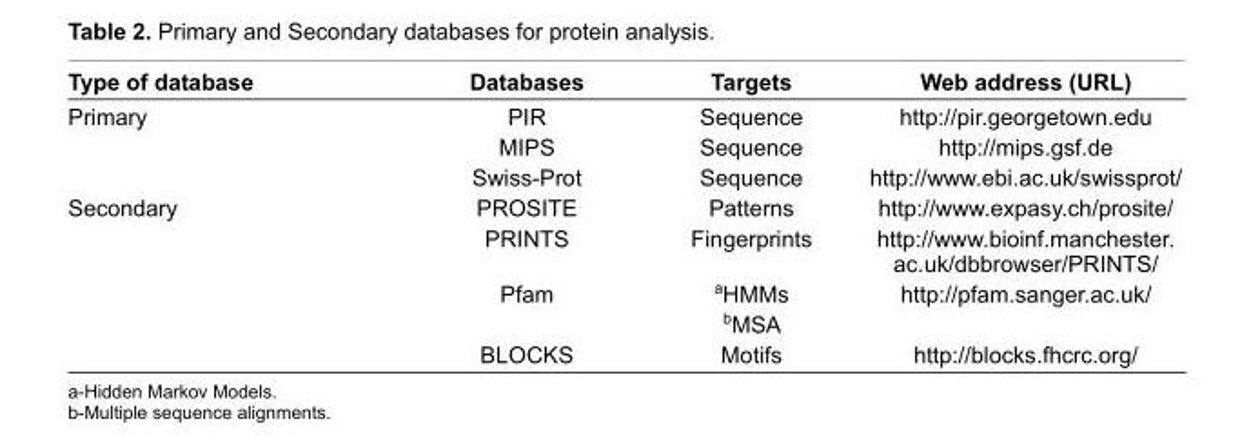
<table><thead><tr><td>Type of database</td><td>Databases</td><td>Targets</td><td>Web address (URL)</td></tr></thead><tbody><tr><td rowspan="3">Primary</td><td>PIR</td><td>Sequence</td><td>http://pir.georgetown.edu</td></tr><tr><td>MIPS</td><td>Sequence</td><td>http://mips.gsf.de</td></tr><tr><td>Swiss-Prot</td><td>Sequence</td><td>http://www.ebi.ac.uk/swissprot/</td></tr><tr><td rowspan="5">Secondary</td><td>PROSITE</td><td>Patterns</td><td>http://www.expasy.ch/prosite/</td></tr><tr><td>PRINTS</td><td>Fingerprints</td><td>http://www.bioinf.manchester. ac.uk/dbbrowser/PRINTS/</td></tr><tr><td rowspan="2">Pfam</td><td><sup>a</sup>HMMs</td><td rowspan="2">http://pfam.sanger.ac.uk/</td></tr><tr><td><sup>b</sup>MSA</td></tr><tr><td>BLOCKS</td><td>Motifs</td><td>http://blocks.fhcrc.org/</td></tr></tbody></table>